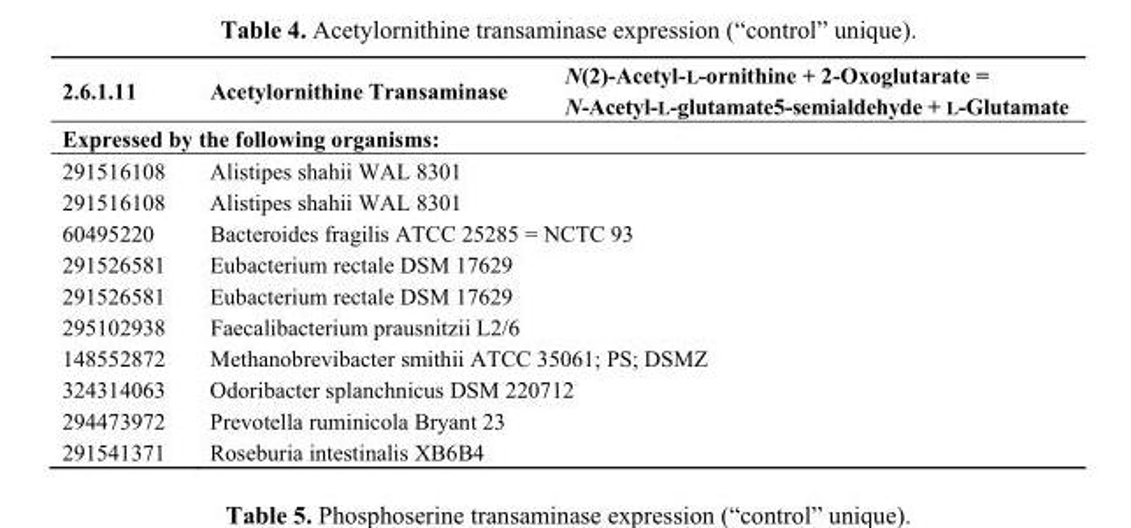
<table><thead><tr><td>2.6.1.11</td><td>Acetylornithine Transaminase</td><td>N(2)-Acetyl-L-ornithine + 2-Oxoglutarate = N-Acetyl-L-glutamate5-semialdehyde + L-Glutamate</td></tr></thead><tbody><tr><td colspan="3">Expressed by the following organisms:</td></tr><tr><td>291516108</td><td colspan="2">Alistipes shahii WAL 8301</td></tr><tr><td>291516108</td><td colspan="2">Alistipes shahii WAL 8301</td></tr><tr><td>60495220</td><td colspan="2">Bacteroides fragilis ATCC 25285 = NCTC 93</td></tr><tr><td>291526581</td><td colspan="2">Eubacterium rectale DSM 17629</td></tr><tr><td>291526581</td><td colspan="2">Eubacterium rectale DSM 17629</td></tr><tr><td>295102938</td><td colspan="2">Faecalibacterium prausnitzii L2/6</td></tr><tr><td>148552872</td><td colspan="2">Methanobrevibacter smithii ATCC 35061; PS; DSMZ</td></tr><tr><td>324314063</td><td colspan="2">Odoribacter splanchnicus DSM 220712</td></tr><tr><td>294473972</td><td colspan="2">Prevotella ruminicola Bryant 23</td></tr><tr><td>291541371</td><td colspan="2">Roseburia intestinalis XB6B4</td></tr></tbody></table>